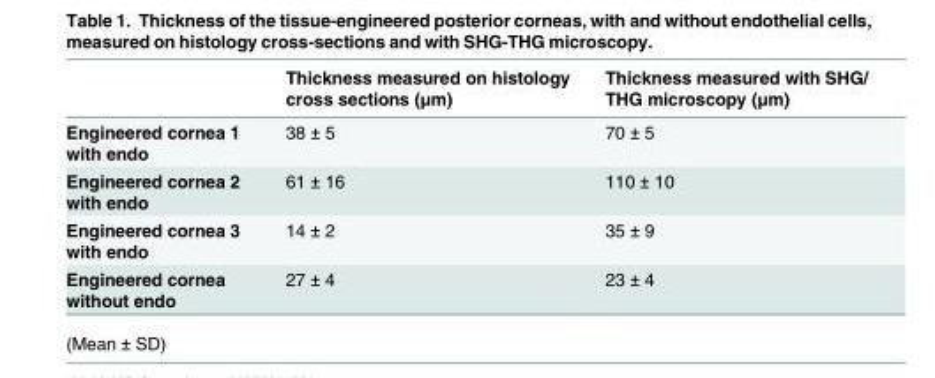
<table><thead><tr><td></td><td>Thickness measured on histology cross sections (μm)</td><td>Thickness measured with SHG/ THG microscopy (μm)</td></tr></thead><tbody><tr><td>Engineered cornea 1 with endo</td><td>38 ± 5</td><td>70 ± 5</td></tr><tr><td>Engineered cornea 2 with endo</td><td>61 ± 16</td><td>110 ± 10</td></tr><tr><td>Engineered cornea 3 with endo</td><td>14 ± 2</td><td>35 ± 9</td></tr><tr><td>Engineered cornea without endo</td><td>27 ± 4</td><td>23 ± 4</td></tr></tbody></table>